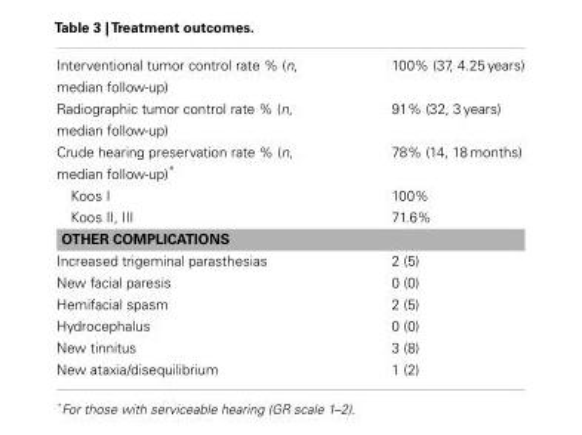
<table><tbody><tr><td>Interventional tumor control rate % (n, median follow-up)</td><td>100% (37, 4.25 years)</td></tr><tr><td>Radiographic tumor control rate % (n, median follow-up)</td><td>91% (32, 3 years)</td></tr><tr><td>Crude hearing preservation rate % (n, median follow-up)*</td><td>78% (14, 18 months)</td></tr><tr><td>Koos I</td><td>100%</td></tr><tr><td>Koos II, III</td><td>71.6%</td></tr><tr><td colspan="2">OTHER COMPLICATIONS</td></tr><tr><td>Increased trigeminal parasthesias</td><td>2 (5)</td></tr><tr><td>New facial paresis</td><td>0 (0)</td></tr><tr><td>Hemifacial spasm</td><td>2 (5)</td></tr><tr><td>Hydrocephalus</td><td>0 (0)</td></tr><tr><td>New tinnitus</td><td>3 (8)</td></tr><tr><td>New ataxia/disequilibrium</td><td>1 (2)</td></tr></tbody></table>